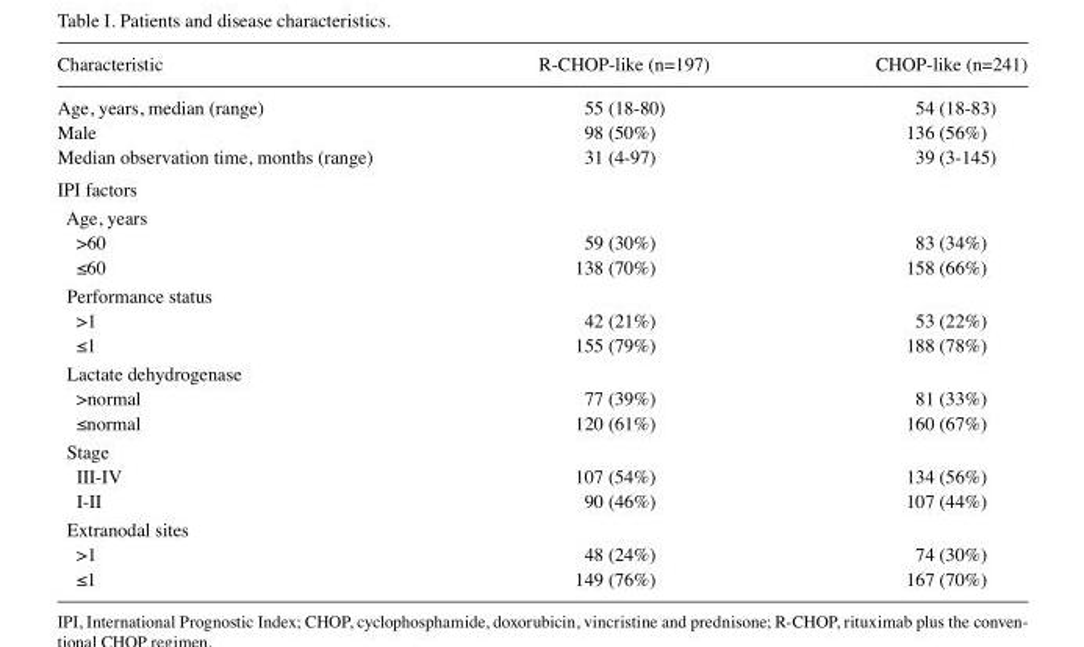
<table><thead><tr><td>Characteristic</td><td>R-CHOP-like (n=197)</td><td>CHOP-like (n=241)</td></tr></thead><tbody><tr><td>Age, years, median (range)</td><td>55 (18-80)</td><td>54 (18-83)</td></tr><tr><td>Male</td><td>98 (50%)</td><td>136 (56%)</td></tr><tr><td>Median observation time, months (range)</td><td>31 (4-97)</td><td>39 (3-145)</td></tr><tr><td colspan="3">IPI factors</td></tr><tr><td colspan="3">Age, years</td></tr><tr><td>&gt;60</td><td>59 (30%)</td><td>83 (34%)</td></tr><tr><td>≤60</td><td>138 (70%)</td><td>158 (66%)</td></tr><tr><td colspan="3">Performance status</td></tr><tr><td>&gt;1</td><td>42 (21%)</td><td>53 (22%)</td></tr><tr><td>≤1</td><td>155 (79%)</td><td>188 (78%)</td></tr><tr><td colspan="3">Lactate dehydrogenase</td></tr><tr><td>&gt;normal</td><td>77 (39%)</td><td>81 (33%)</td></tr><tr><td>≤normal</td><td>120 (61%)</td><td>160 (67%)</td></tr><tr><td colspan="3">Stage</td></tr><tr><td>III-IV</td><td>107 (54%)</td><td>134 (56%)</td></tr><tr><td>I-II</td><td>90 (46%)</td><td>107 (44%)</td></tr><tr><td colspan="3">Extranodal sites</td></tr><tr><td>&gt;1</td><td>48 (24%)</td><td>74 (30%)</td></tr><tr><td>≤1</td><td>149 (76%)</td><td>167 (70%)</td></tr></tbody></table>